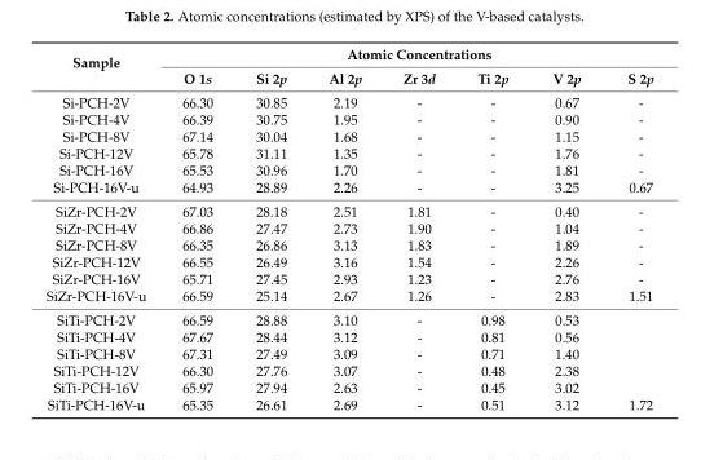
<table><thead><tr><td rowspan="2">Sample</td><td colspan="7">Atomic Concentrations</td></tr><tr><td>O 1s</td><td>Si 2p</td><td>Al 2p</td><td>Zr 3d</td><td>Ti 2p</td><td>V 2p</td><td>S 2p</td></tr></thead><tbody><tr><td>Si-PCH-2V</td><td>66.30</td><td>30.85</td><td>2.19</td><td>-</td><td>-</td><td>0.67</td><td>-</td></tr><tr><td>Si-PCH-4V</td><td>66.39</td><td>30.75</td><td>1.95</td><td>-</td><td>-</td><td>0.90</td><td>-</td></tr><tr><td>Si-PCH-8V</td><td>67.14</td><td>30.04</td><td>1.68</td><td>-</td><td>-</td><td>1.15</td><td>-</td></tr><tr><td>Si-PCH-12V</td><td>65.78</td><td>31.11</td><td>1.35</td><td>-</td><td>-</td><td>1.76</td><td>-</td></tr><tr><td>Si-PCH-16V</td><td>65.53</td><td>30.96</td><td>1.70</td><td>-</td><td>-</td><td>1.81</td><td>-</td></tr><tr><td>Si-PCH-16V-u</td><td>64.93</td><td>28.89</td><td>2.26</td><td>-</td><td>-</td><td>3.25</td><td>0.67</td></tr><tr><td>SiZr-PCH-2V</td><td>67.03</td><td>28.18</td><td>2.51</td><td>1.81</td><td>-</td><td>0.40</td><td>-</td></tr><tr><td>SiZr-PCH-4V</td><td>66.86</td><td>27.47</td><td>2.73</td><td>1.90</td><td>-</td><td>1.04</td><td>-</td></tr><tr><td>SiZr-PCH-8V</td><td>66.35</td><td>26.86</td><td>3.13</td><td>1.83</td><td>-</td><td>1.89</td><td>-</td></tr><tr><td>SiZr-PCH-12V</td><td>66.55</td><td>26.49</td><td>3.16</td><td>1.54</td><td>-</td><td>2.26</td><td>-</td></tr><tr><td>SiZr-PCH-16V</td><td>65.71</td><td>27.45</td><td>2.93</td><td>1.23</td><td>-</td><td>2.76</td><td>-</td></tr><tr><td>SiZr-PCH-16V-u</td><td>66.59</td><td>25.14</td><td>2.67</td><td>1.26</td><td>-</td><td>2.83</td><td>1.51</td></tr><tr><td>SiTi-PCH-2V</td><td>66.59</td><td>28.88</td><td>3.10</td><td>-</td><td>0.98</td><td>0.53</td><td></td></tr><tr><td>SiTi-PCH-4V</td><td>67.67</td><td>28.44</td><td>3.12</td><td>-</td><td>0.81</td><td>0.56</td><td></td></tr><tr><td>SiTi-PCH-8V</td><td>67.31</td><td>27.49</td><td>3.09</td><td>-</td><td>0.71</td><td>1.40</td><td></td></tr><tr><td>SiTi-PCH-12V</td><td>66.30</td><td>27.76</td><td>3.07</td><td>-</td><td>0.48</td><td>2.38</td><td></td></tr><tr><td>SiTi-PCH-16V</td><td>65.97</td><td>27.94</td><td>2.63</td><td>-</td><td>0.45</td><td>3.02</td><td></td></tr><tr><td>SiTi-PCH-16V-u</td><td>65.35</td><td>26.61</td><td>2.69</td><td>-</td><td>0.51</td><td>3.12</td><td>1.72</td></tr></tbody></table>